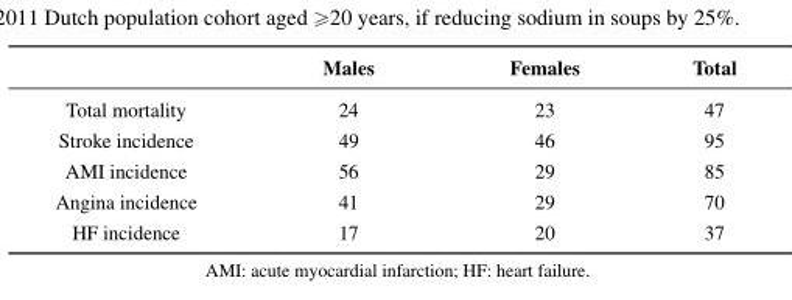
<table><thead><tr><td></td><td>Males</td><td>Females</td><td>Total</td></tr></thead><tbody><tr><td>Total mortality</td><td>24</td><td>23</td><td>47</td></tr><tr><td>Stroke incidence</td><td>49</td><td>46</td><td>95</td></tr><tr><td>AMI incidence</td><td>56</td><td>29</td><td>85</td></tr><tr><td>Angina incidence</td><td>41</td><td>29</td><td>70</td></tr><tr><td>HF incidence</td><td>17</td><td>20</td><td>37</td></tr></tbody></table>